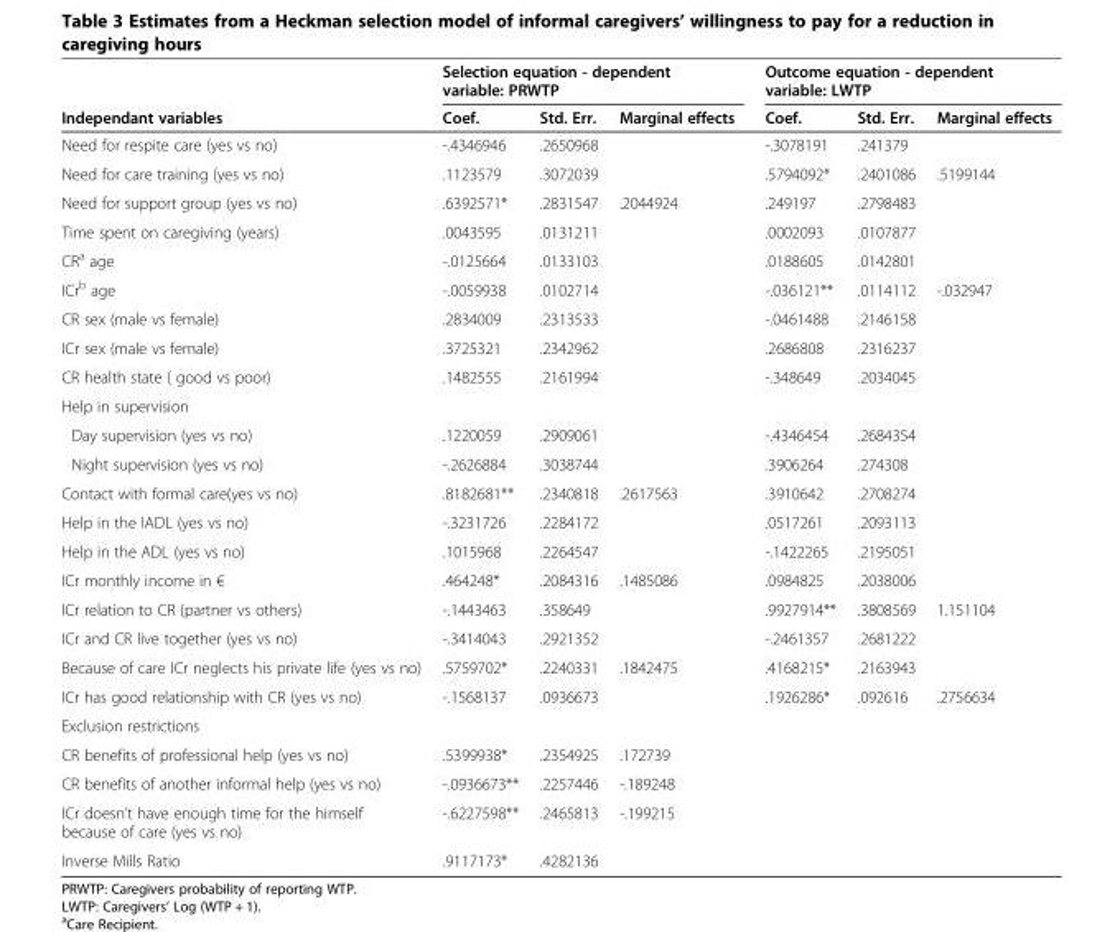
<table><thead><tr><td rowspan="2">Independant variables</td><td colspan="3">Selection equation - dependent variable: PRWTP</td><td colspan="3">Outcome equation - dependent variable: LWTP</td></tr><tr><td>Coef.</td><td>Std. Err.</td><td>Marginal effects</td><td>Coef.</td><td>Std. Err.</td><td>Marginal effects</td></tr></thead><tbody><tr><td>Need for respite care (yes vs no)</td><td>-.4346946</td><td>.2650968</td><td></td><td>-.3078191</td><td>.241379</td><td></td></tr><tr><td>Need for care training (yes vs no)</td><td>.1123579</td><td>.3072039</td><td></td><td>.5794092*</td><td>.2401086</td><td>.5199144</td></tr><tr><td>Need for support group (yes vs no)</td><td>.6392571*</td><td>.2831547</td><td>.2044924</td><td>.249197</td><td>.2798483</td><td></td></tr><tr><td>Time spent on caregiving (years)</td><td>.0043595</td><td>.0131211</td><td></td><td>.0002093</td><td>.0107877</td><td></td></tr><tr><td>CR<sup>a</sup> age</td><td>-.0125664</td><td>.0133103</td><td></td><td>.0188605</td><td>.0142801</td><td></td></tr><tr><td>ICr<sup>b</sup> age</td><td>-.0059938</td><td>.0102714</td><td></td><td>-.036121**</td><td>.0114112</td><td>-.032947</td></tr><tr><td>CR sex (male vs female)</td><td>.2834009</td><td>.2313533</td><td></td><td>-.0461488</td><td>.2146158</td><td></td></tr><tr><td>ICr sex (male vs female)</td><td>.3725321</td><td>.2342962</td><td></td><td>.2686808</td><td>.2316237</td><td></td></tr><tr><td>CR health state ( good vs poor)</td><td>.1482555</td><td>.2161994</td><td></td><td>-.348649</td><td>.2034045</td><td></td></tr><tr><td colspan="7">Help in supervision</td></tr><tr><td>Day supervision (yes vs no)</td><td>.1220059</td><td>.2909061</td><td></td><td>-.4346454</td><td>.2684354</td><td></td></tr><tr><td>Night supervision (yes vs no)</td><td>-.2626884</td><td>.3038744</td><td></td><td>.3906264</td><td>.274308</td><td></td></tr><tr><td>Contact with formal care(yes vs no)</td><td>.8182681**</td><td>.2340818</td><td>.2617563</td><td>.3910642</td><td>.2708274</td><td></td></tr><tr><td>Help in the IADL (yes vs no)</td><td>-.3231726</td><td>.2284172</td><td></td><td>.0517261</td><td>.2093113</td><td></td></tr><tr><td>Help in the ADL (yes vs no)</td><td>.1015968</td><td>.2264547</td><td></td><td>-.1422265</td><td>.2195051</td><td></td></tr><tr><td>ICr monthly income in €</td><td>.464248*</td><td>.2084316</td><td>.1485086</td><td>.0984825</td><td>.2038006</td><td></td></tr><tr><td>ICr relation to CR (partner vs others)</td><td>-.1443463</td><td>.358649</td><td></td><td>.9927914**</td><td>.3808569</td><td>1.151104</td></tr><tr><td>ICr and CR live together (yes vs no)</td><td>-.3414043</td><td>.2921352</td><td></td><td>-.2461357</td><td>.2681222</td><td></td></tr><tr><td>Because of care ICr neglects his private life (yes vs no)</td><td>.5759702*</td><td>.2240331</td><td>.1842475</td><td>.4168215*</td><td>.2163943</td><td></td></tr><tr><td>ICr has good relationship with CR (yes vs no)</td><td>-.1568137</td><td>.0936673</td><td></td><td>.1926286*</td><td>.092616</td><td>.2756634</td></tr><tr><td colspan="7">Exclusion restrictions</td></tr><tr><td>CR benefits of professional help (yes vs no)</td><td>.5399938*</td><td>.2354925</td><td>.172739</td><td></td><td></td><td></td></tr><tr><td>CR benefits of another informal help (yes vs no)</td><td>-.0936673**</td><td>.2257446</td><td>-.189248</td><td></td><td></td><td></td></tr><tr><td>ICr doesn’t have enough time for the himself because of care (yes vs no)</td><td>-.6227598**</td><td>.2465813</td><td>-.199215</td><td></td><td></td><td></td></tr><tr><td>Inverse Mills Ratio</td><td>.9117173*</td><td>.4282136</td><td></td><td></td><td></td><td></td></tr></tbody></table>